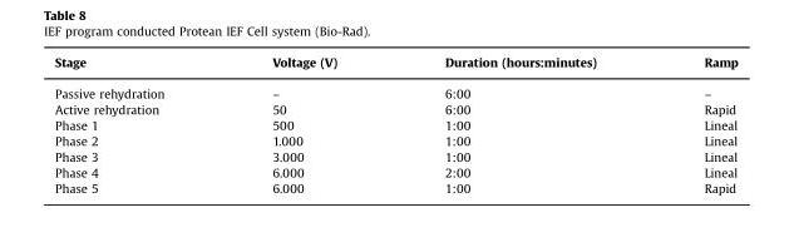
<table><thead><tr><td>Stage</td><td>Voltage (V)</td><td>Duration (hours:minutes)</td><td>Ramp</td></tr></thead><tbody><tr><td>Passive rehydration</td><td>–</td><td>6:00</td><td>–</td></tr><tr><td>Active rehydration</td><td>50</td><td>6:00</td><td>Rapid</td></tr><tr><td>Phase 1</td><td>500</td><td>1:00</td><td>Lineal</td></tr><tr><td>Phase 2</td><td>1.000</td><td>1:00</td><td>Lineal</td></tr><tr><td>Phase 3</td><td>3.000</td><td>1:00</td><td>Lineal</td></tr><tr><td>Phase 4</td><td>6.000</td><td>2:00</td><td>Lineal</td></tr><tr><td>Phase 5</td><td>6.000</td><td>1:00</td><td>Rapid</td></tr></tbody></table>